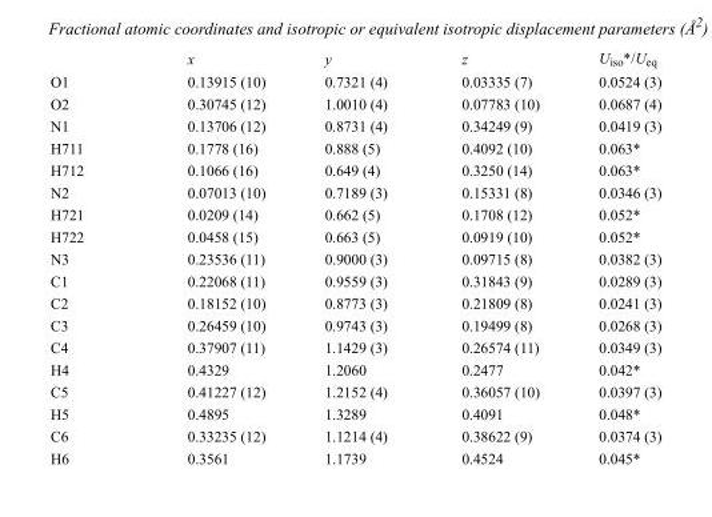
<table><thead><tr><td></td><td>x</td><td>y</td><td>z</td><td>U<sub>iso</sub>*/U<sub>eq</sub></td></tr></thead><tbody><tr><td>O1</td><td>0.13915 (10)</td><td>0.7321 (4)</td><td>0.03335 (7)</td><td>0.0524 (3)</td></tr><tr><td>O2</td><td>0.30745 (12)</td><td>1.0010 (4)</td><td>0.07783 (10)</td><td>0.0687 (4)</td></tr><tr><td>N1</td><td>0.13706 (12)</td><td>0.8731 (4)</td><td>0.34249 (9)</td><td>0.0419 (3)</td></tr><tr><td>H711</td><td>0.1778 (16)</td><td>0.888 (5)</td><td>0.4092 (10)</td><td>0.063*</td></tr><tr><td>H712</td><td>0.1066 (16)</td><td>0.649 (4)</td><td>0.3250 (14)</td><td>0.063*</td></tr><tr><td>N2</td><td>0.07013 (10)</td><td>0.7189 (3)</td><td>0.15331 (8)</td><td>0.0346 (3)</td></tr><tr><td>H721</td><td>0.0209 (14)</td><td>0.662 (5)</td><td>0.1708 (12)</td><td>0.052*</td></tr><tr><td>H722</td><td>0.0458 (15)</td><td>0.663 (5)</td><td>0.0919 (10)</td><td>0.052*</td></tr><tr><td>N3</td><td>0.23536 (11)</td><td>0.9000 (3)</td><td>0.09715 (8)</td><td>0.0382 (3)</td></tr><tr><td>C1</td><td>0.22068 (11)</td><td>0.9559 (3)</td><td>0.31843 (9)</td><td>0.0289 (3)</td></tr><tr><td>C2</td><td>0.18152 (10)</td><td>0.8773 (3)</td><td>0.21809 (8)</td><td>0.0241 (3)</td></tr><tr><td>C3</td><td>0.26459 (10)</td><td>0.9743 (3)</td><td>0.19499 (8)</td><td>0.0268 (3)</td></tr><tr><td>C4</td><td>0.37907 (11)</td><td>1.1429 (3)</td><td>0.26574 (11)</td><td>0.0349 (3)</td></tr><tr><td>H4</td><td>0.4329</td><td>1.2060</td><td>0.2477</td><td>0.042*</td></tr><tr><td>C5</td><td>0.41227 (12)</td><td>1.2152 (4)</td><td>0.36057 (10)</td><td>0.0397 (3)</td></tr><tr><td>H5</td><td>0.4895</td><td>1.3289</td><td>0.4091</td><td>0.048*</td></tr><tr><td>C6</td><td>0.33235 (12)</td><td>1.1214 (4)</td><td>0.38622 (9)</td><td>0.0374 (3)</td></tr><tr><td>H6</td><td>0.3561</td><td>1.1739</td><td>0.4524</td><td>0.045*</td></tr></tbody></table>